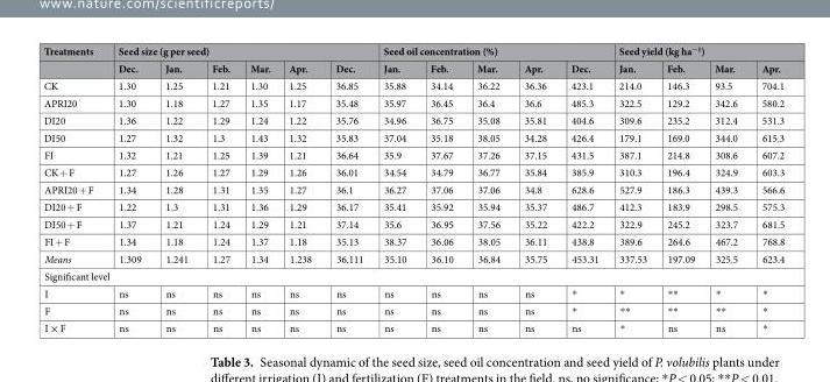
<table><thead><tr><td rowspan="2">Treatments</td><td colspan="6">Seed size (g per seed)</td><td colspan="5">Seed oil concentration (%)</td><td colspan="4">Seed yield (kg ha<sup>−1</sup>)</td></tr><tr><td>Dec.</td><td>Jan.</td><td>Feb.</td><td>Mar.</td><td>Apr.</td><td>Dec.</td><td>Jan.</td><td>Feb.</td><td>Mar.</td><td>Apr.</td><td>Dec.</td><td>Jan.</td><td>Feb.</td><td>Mar.</td><td>Apr.</td></tr></thead><tbody><tr><td>CK</td><td>1.30</td><td>1.25</td><td>1.21</td><td>1.30</td><td>1.25</td><td>36.85</td><td>35.88</td><td>34.14</td><td>36.22</td><td>36.36</td><td>423.1</td><td>214.0</td><td>146.3</td><td>93.5</td><td>704.1</td></tr><tr><td>APRI20</td><td>1.30</td><td>1.18</td><td>1.27</td><td>1.35</td><td>1.17</td><td>35.48</td><td>35.97</td><td>36.45</td><td>36.4</td><td>36.6</td><td>485.3</td><td>322.5</td><td>129.2</td><td>342.6</td><td>580.2</td></tr><tr><td>DI20</td><td>1.36</td><td>1.22</td><td>1.29</td><td>1.24</td><td>1.22</td><td>35.76</td><td>34.96</td><td>36.75</td><td>35.08</td><td>35.81</td><td>404.6</td><td>309.6</td><td>235.2</td><td>312.4</td><td>531.3</td></tr><tr><td>DI50</td><td>1.27</td><td>1.32</td><td>1.3</td><td>1.43</td><td>1.32</td><td>35.83</td><td>37.04</td><td>35.18</td><td>38.05</td><td>34.28</td><td>426.4</td><td>179.1</td><td>169.0</td><td>344.0</td><td>615.3</td></tr><tr><td>FI</td><td>1.32</td><td>1.21</td><td>1.25</td><td>1.39</td><td>1.21</td><td>36.64</td><td>35.9</td><td>37.67</td><td>37.26</td><td>37.15</td><td>431.5</td><td>387.1</td><td>214.8</td><td>308.6</td><td>607.2</td></tr><tr><td>CK + F</td><td>1.27</td><td>1.26</td><td>1.27</td><td>1.29</td><td>1.26</td><td>36.01</td><td>34.54</td><td>34.79</td><td>36.77</td><td>35.84</td><td>385.9</td><td>310.3</td><td>196.4</td><td>324.9</td><td>603.3</td></tr><tr><td>APRI20 + F</td><td>1.34</td><td>1.28</td><td>1.31</td><td>1.35</td><td>1.27</td><td>36.1</td><td>36.27</td><td>37.06</td><td>37.06</td><td>34.8</td><td>628.6</td><td>527.9</td><td>186.3</td><td>439.3</td><td>566.6</td></tr><tr><td>DI20 + F</td><td>1.22</td><td>1.3</td><td>1.31</td><td>1.36</td><td>1.29</td><td>36.17</td><td>35.41</td><td>35.92</td><td>35.94</td><td>35.37</td><td>486.7</td><td>412.3</td><td>183.9</td><td>298.5</td><td>575.3</td></tr><tr><td>DI50 + F</td><td>1.37</td><td>1.21</td><td>1.24</td><td>1.29</td><td>1.21</td><td>37.14</td><td>35.6</td><td>36.95</td><td>37.56</td><td>35.22</td><td>422.2</td><td>322.9</td><td>245.2</td><td>323.7</td><td>681.5</td></tr><tr><td>FI + F</td><td>1.34</td><td>1.18</td><td>1.24</td><td>1.37</td><td>1.18</td><td>35.13</td><td>38.37</td><td>36.06</td><td>38.05</td><td>36.11</td><td>438.8</td><td>389.6</td><td>264.6</td><td>467.2</td><td>768.8</td></tr><tr><td>Means</td><td>1.309</td><td>1.241</td><td>1.27</td><td>1.34</td><td>1.238</td><td>36.111</td><td>35.10</td><td>36.10</td><td>36.84</td><td>35.75</td><td>453.31</td><td>337.53</td><td>197.09</td><td>325.5</td><td>623.4</td></tr><tr><td colspan="16">Significant level</td></tr><tr><td>I</td><td>ns</td><td>ns</td><td>ns</td><td>ns</td><td>ns</td><td>ns</td><td>ns</td><td>ns</td><td>ns</td><td>ns</td><td>*</td><td>*</td><td>**</td><td>*</td><td>*</td></tr><tr><td>F</td><td>ns</td><td>ns</td><td>ns</td><td>ns</td><td>ns</td><td>ns</td><td>ns</td><td>ns</td><td>ns</td><td>ns</td><td>*</td><td>**</td><td>**</td><td>**</td><td>*</td></tr><tr><td>I × F</td><td>ns</td><td>ns</td><td>ns</td><td>ns</td><td>ns</td><td>ns</td><td>ns</td><td>ns</td><td>ns</td><td>ns</td><td>ns</td><td>*</td><td>ns</td><td>ns</td><td>*</td></tr></tbody></table>